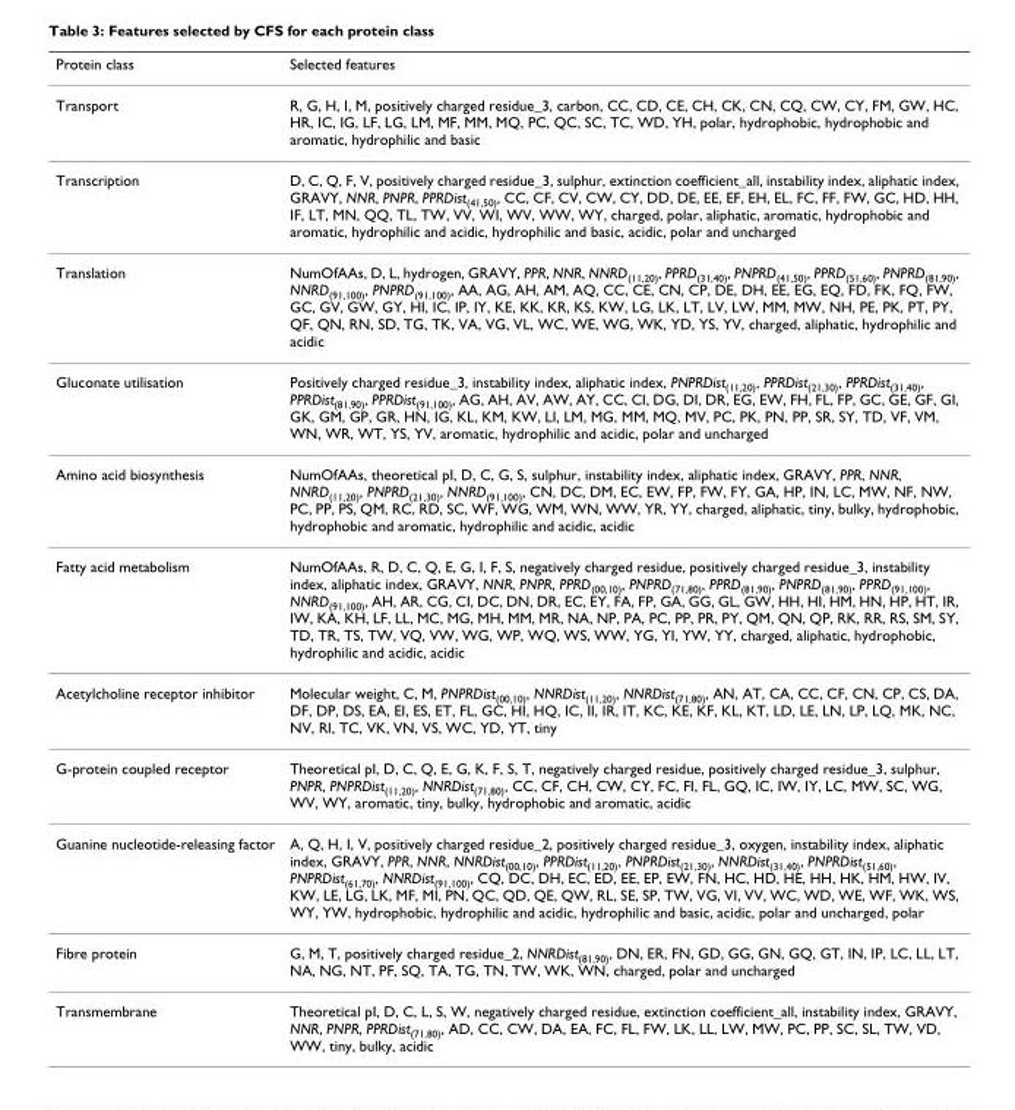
<table><thead><tr><td>Protein class</td><td>Selected features</td></tr></thead><tbody><tr><td>Transport</td><td>R, G, H, I, M, positively charged residue_3, carbon, CC, CD, CE, CH, CK, CN, CQ, CW, CY, FM, GW, HC, HR, IC, IG, LF, LG, LM, MF, MM, MQ, PC, QC, SC, TC, WD, YH, polar, hydrophobic, hydrophobic and aromatic, hydrophilic and basic</td></tr><tr><td>Transcription</td><td>D, C, Q, F, V, positively charged residue_3, sulphur, extinction coefficient_all, instability index, aliphatic index, GRAVY, NNR, PNPR, PPRDist(41,50), CC, CF, CV, CW, CY, DD, DE, EE, EF, EH, EL, FC, FF, FW, GC, HD, HH, IF, LT, MN, QQ, TL, TW, VV, WI, WV, WW, WY, charged, polar, aliphatic, aromatic, hydrophobic and aromatic, hydrophilic and acidic, hydrophilic and basic, acidic, polar and uncharged</td></tr><tr><td>Translation</td><td>NumOfAAs, D, L, hydrogen, GRAVY, PPR, NNR, NNRD(11,20), PPRD(31,40), PNPRD(41,50), PPRD(51,60), PNPRD(81,90), NNRD(91,100), PNPRD(91,100), AA, AG, AH, AM, AQ, CC, CE, CN, CP, DE, DH, EE, EG, EQ, FD, FK, FQ, FW, GC, GV, GW, GY, HI, IC, IP, IY, KE, KK, KR, KS, KW, LG, LK, LT, LV, LW, MM, MW, NH, PE, PK, PT, PY, QF, QN, RN, SD, TG, TK, VA, VG, VL, WC, WE, WG, WK, YD, YS, YV, charged, aliphatic, hydrophilic and acidic</td></tr><tr><td>Gluconate utilisation</td><td>Positively charged residue_3, instability index, aliphatic index, PNPRDist(11,20), PPRDist(21,30), PPRDist(31,40), PPRDist(81,90), PPRDist(91,100), AG, AH, AV, AW, AY, CC, CI, DG, DI, DR, EG, EW, FH, FL, FP, GC, GE, GF, GI, GK, GM, GP, GR, HN, IG, KL, KM, KW, LI, LM, MG, MM, MQ, MV, PC, PK, PN, PP, SR, SY, TD, VF, VM, WN, WR, WT, YS, YV, aromatic, hydrophilic and acidic, polar and uncharged</td></tr><tr><td>Amino acid biosynthesis</td><td>NumOfAAs, theoretical pI, D, C, G, S, sulphur, instability index, aliphatic index, GRAVY, PPR, NNR, NNRD(11,20), PNPRD(21,30), NNRD(91,100), CN, DC, DM, EC, EW, FP, FW, FY, GA, HP, IN, LC, MW, NF, NW, PC, PP, PS, QM, RC, RD, SC, WF, WG, WM, WN, WW, YR, YY, charged, aliphatic, tiny, bulky, hydrophobic, hydrophobic and aromatic, hydrophilic and acidic, acidic</td></tr><tr><td>Fatty acid metabolism</td><td>NumOfAAs, R, D, C, Q, E, G, I, F, S, negatively charged residue, positively charged residue_3, instability index, aliphatic index, GRAVY, NNR, PNPR, PPRD(00,10), PNPRD(71,80), PPRD(81,90), PNPRD(81,90), PPRD(91,100), NNRD(91,100), AH, AR, CG, CI, DC, DN, DR, EC, EY, FA, FP, GA, GG, GL, GW, HH, HI, HM, HN, HP, HT, IR, IW, KA, KH, LF, LL, MC, MG, MH, MM, MR, NA, NP, PA, PC, PP, PR, PY, QM, QN, QP, RK, RR, RS, SM, SY, TD, TR, TS, TW, VQ, VW, WG, WP, WQ, WS, WW, YG, YI, YW, YY, charged, aliphatic, hydrophobic, hydrophilic and acidic, acidic</td></tr><tr><td>Acetylcholine receptor inhibitor</td><td>Molecular weight, C, M, PNPRDist(00,10), NNRDist(11,20), NNRDist(71,80), AN, AT, CA, CC, CF, CN, CP, CS, DA, DF, DP, DS, EA, EI, ES, ET, FL, GC, HI, HQ, IC, II, IR, IT, KC, KE, KF, KL, KT, LD, LE, LN, LP, LQ, MK, NC, NV, RI, TC, VK, VN, VS, WC, YD, YT, tiny</td></tr><tr><td>G-protein coupled receptor</td><td>Theoretical pI, D, C, Q, E, G, K, F, S, T, negatively charged residue, positively charged residue_3, sulphur, PNPR, PNPRDist(11,20), NNRDist(71,80), CC, CF, CH, CW, CY, FC, FI, FL, GQ, IC, IW, IY, LC, MW, SC, WG, WV, WY, aromatic, tiny, bulky, hydrophobic and aromatic, acidic</td></tr><tr><td>Guanine nucleotide-releasing factor</td><td>A, Q, H, I, V, positively charged residue_2, positively charged residue_3, oxygen, instability index, aliphatic index, GRAVY, PPR, NNR, NNRDist(00,10), PPRDist(11,20), PNPRDist(21,30), NNRDist(31,40), PNPRDist(51,60), PNPRDist(61,70), NNRDist(91,100), CQ, DC, DH, EC, ED, EE, EP, EW, FN, HC, HD, HE, HH, HK, HM, HW, IV, KW, LE, LG, LK, MF, MI, PN, QC, QD, QE, QW, RL, SE, SP, TW, VG, VI, VV, WC, WD, WE, WF, WK, WS, WY, YW, hydrophobic, hydrophilic and acidic, hydrophilic and basic, acidic, polar and uncharged, polar</td></tr><tr><td>Fibre protein</td><td>G, M, T, positively charged residue_2, NNRDist(81,90), DN, ER, FN, GD, GG, GN, GQ, GT, IN, IP, LC, LL, LT, NA, NG, NT, PF, SQ, TA, TG, TN, TW, WK, WN, charged, polar and uncharged</td></tr><tr><td>Transmembrane</td><td>Theoretical pI, D, C, L, S, W, negatively charged residue, extinction coefficient_all, instability index, GRAVY, NNR, PNPR, PPRDist(71,80), AD, CC, CW, DA, EA, FC, FL, FW, LK, LL, LW, MW, PC, PP, SC, SL, TW, VD, WW, tiny, bulky, acidic</td></tr></tbody></table>